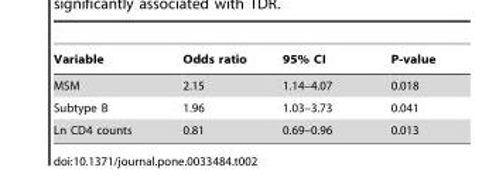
<table><thead><tr><td>Variable</td><td>Odds ratio</td><td>95% CI</td><td>P-value</td></tr></thead><tbody><tr><td>MSM</td><td>2.15</td><td>1.14–4.07</td><td>0.018</td></tr><tr><td>Subtype B</td><td>1.96</td><td>1.03–3.73</td><td>0.041</td></tr><tr><td>Ln CD4 counts</td><td>0.81</td><td>0.69–0.96</td><td>0.013</td></tr></tbody></table>